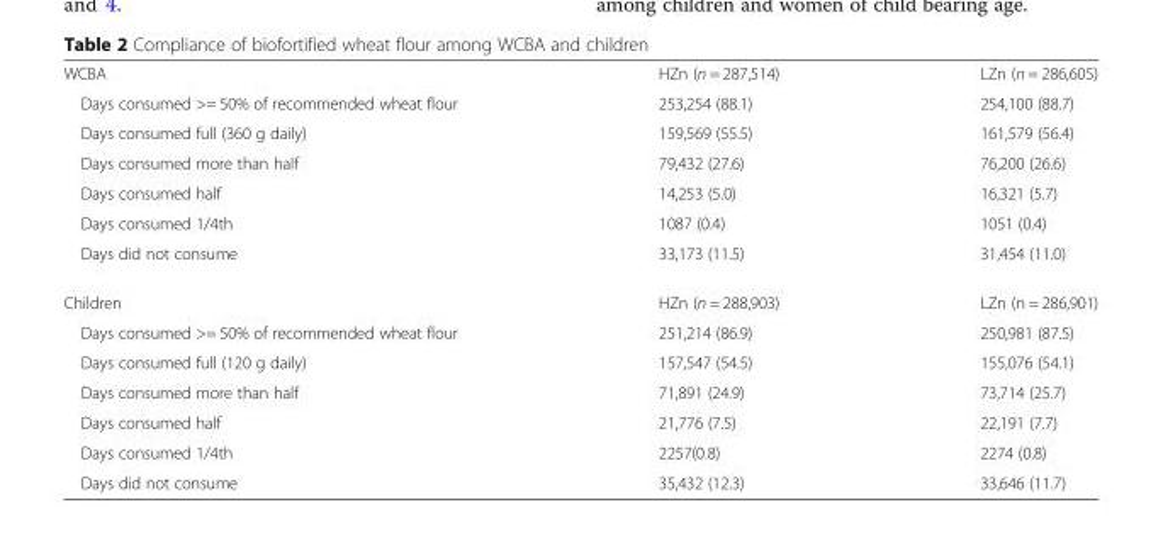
<table><tbody><tr><td>WCBA</td><td>HZn (n = 287,514)</td><td>LZn (n = 286,605)</td></tr><tr><td>Days consumed &gt;= 50% of recommended wheat flour</td><td>253,254 (88.1)</td><td>254,100 (88.7)</td></tr><tr><td>Days consumed full (360 g daily)</td><td>159,569 (55.5)</td><td>161,579 (56.4)</td></tr><tr><td>Days consumed more than half</td><td>79,432 (27.6)</td><td>76,200 (26.6)</td></tr><tr><td>Days consumed half</td><td>14,253 (5.0)</td><td>16,321 (5.7)</td></tr><tr><td>Days consumed 1/4th</td><td>1087 (0.4)</td><td>1051 (0.4)</td></tr><tr><td>Days did not consume</td><td>33,173 (11.5)</td><td>31,454 (11.0)</td></tr><tr><td>Children</td><td>HZn (n = 288,903)</td><td>LZn (n = 286,901)</td></tr><tr><td>Days consumed &gt;= 50% of recommended wheat flour</td><td>251,214 (86.9)</td><td>250,981 (87.5)</td></tr><tr><td>Days consumed full (120 g daily)</td><td>157,547 (54.5)</td><td>155,076 (54.1)</td></tr><tr><td>Days consumed more than half</td><td>71,891 (24.9)</td><td>73,714 (25.7)</td></tr><tr><td>Days consumed half</td><td>21,776 (7.5)</td><td>22,191 (7.7)</td></tr><tr><td>Days consumed 1/4th</td><td>2257(0.8)</td><td>2274 (0.8)</td></tr><tr><td>Days did not consume</td><td>35,432 (12.3)</td><td>33,646 (11.7)</td></tr></tbody></table>